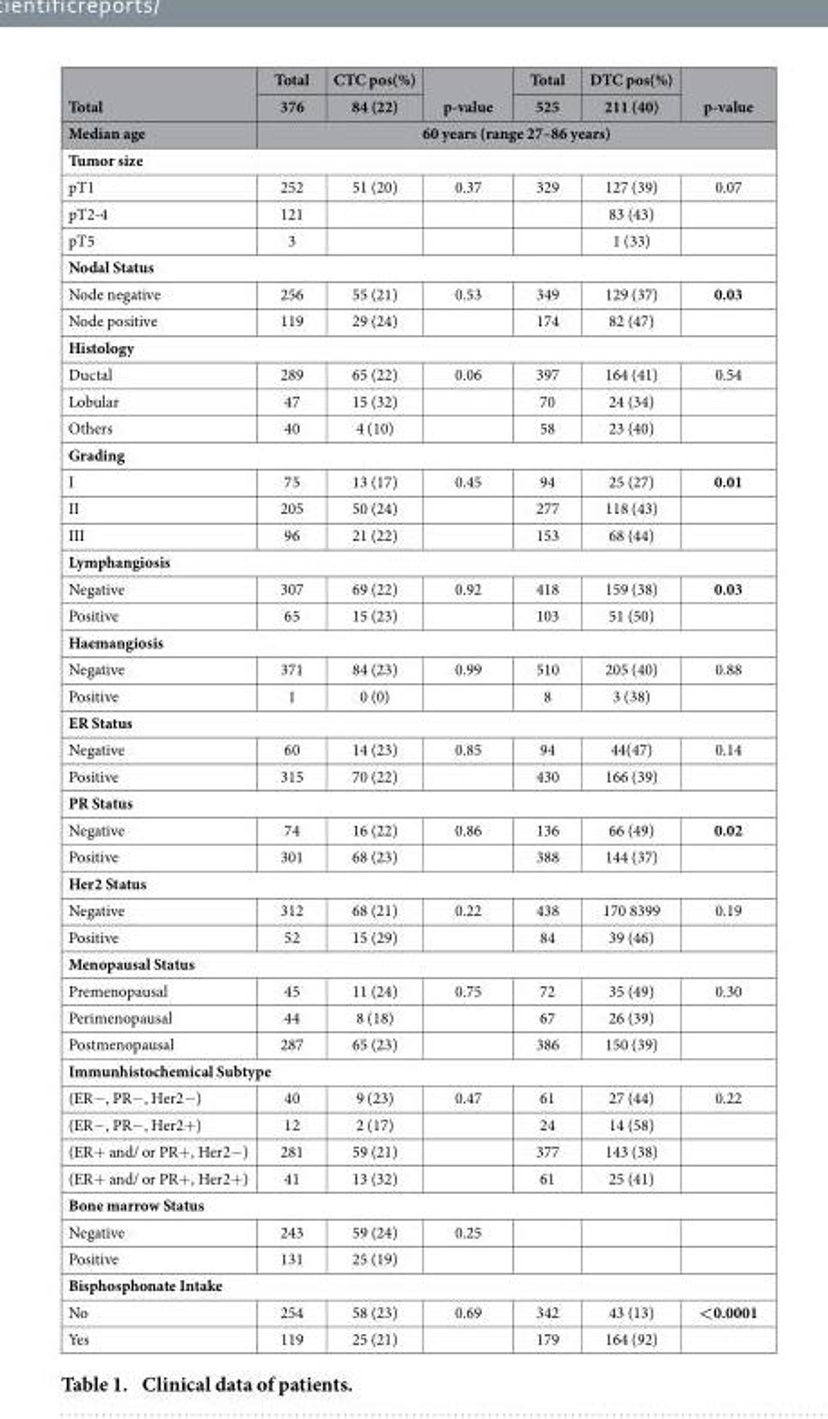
<table><thead><tr><td rowspan="3">Total Median age</td><td rowspan="2">Total 376</td><td rowspan="2">CTC pos(%) 84 (22)</td><td rowspan="2">p-value</td><td rowspan="2">Total 525</td><td rowspan="2">DTC pos(%) 211 (40)</td><td rowspan="2">p-value</td></tr><tr></tr><tr><td colspan="6">60 years (range 27–86 years)</td></tr></thead><tbody><tr><td colspan="7">Tumor size</td></tr><tr><td>pT1</td><td>252</td><td>51 (20)</td><td>0.37</td><td>329</td><td>127 (39)</td><td>0.07</td></tr><tr><td>pT2-4</td><td>121</td><td></td><td></td><td></td><td>83 (43)</td><td></td></tr><tr><td>pT5</td><td>3</td><td></td><td></td><td></td><td>1 (33)</td><td></td></tr><tr><td colspan="7">Nodal Status</td></tr><tr><td>Node negative</td><td>256</td><td>55 (21)</td><td>0.53</td><td>349</td><td>129 (37)</td><td>0.03</td></tr><tr><td>Node positive</td><td>119</td><td>29 (24)</td><td></td><td>174</td><td>82 (47)</td><td></td></tr><tr><td colspan="7">Histology</td></tr><tr><td>Ductal</td><td>289</td><td>65 (22)</td><td>0.06</td><td>397</td><td>164 (41)</td><td>0.54</td></tr><tr><td>Lobular</td><td>47</td><td>15 (32)</td><td></td><td>70</td><td>24 (34)</td><td></td></tr><tr><td>Others</td><td>40</td><td>4 (10)</td><td></td><td>58</td><td>23 (40)</td><td></td></tr><tr><td colspan="7">Grading</td></tr><tr><td>I</td><td>75</td><td>13 (17)</td><td>0.45</td><td>94</td><td>25 (27)</td><td>0.01</td></tr><tr><td>II</td><td>205</td><td>50 (24)</td><td></td><td>277</td><td>118 (43)</td><td></td></tr><tr><td>III</td><td>96</td><td>21 (22)</td><td></td><td>153</td><td>68 (44)</td><td></td></tr><tr><td colspan="7">Lymphangiosis</td></tr><tr><td>Negative</td><td>307</td><td>69 (22)</td><td>0.92</td><td>418</td><td>159 (38)</td><td>0.03</td></tr><tr><td>Positive</td><td>65</td><td>15 (23)</td><td></td><td>103</td><td>51 (50)</td><td></td></tr><tr><td colspan="7">Haemangiosis</td></tr><tr><td>Negative</td><td>371</td><td>84 (23)</td><td>0.99</td><td>510</td><td>205 (40)</td><td>0.88</td></tr><tr><td>Positive</td><td>1</td><td>0 (0)</td><td></td><td>8</td><td>3 (38)</td><td></td></tr><tr><td colspan="7">ER Status</td></tr><tr><td>Negative</td><td>60</td><td>14 (23)</td><td>0.85</td><td>94</td><td>44(47)</td><td>0.14</td></tr><tr><td>Positive</td><td>315</td><td>70 (22)</td><td></td><td>430</td><td>166 (39)</td><td></td></tr><tr><td colspan="7">PR Status</td></tr><tr><td>Negative</td><td>74</td><td>16 (22)</td><td>0.86</td><td>136</td><td>66 (49)</td><td>0.02</td></tr><tr><td>Positive</td><td>301</td><td>68 (23)</td><td></td><td>388</td><td>144 (37)</td><td></td></tr><tr><td colspan="7">Her2 Status</td></tr><tr><td>Negative</td><td>312</td><td>68 (21)</td><td>0.22</td><td>438</td><td>170 8399</td><td>0.19</td></tr><tr><td>Positive</td><td>52</td><td>15 (29)</td><td></td><td>84</td><td>39 (46)</td><td></td></tr><tr><td colspan="7">Menopausal Status</td></tr><tr><td>Premenopausal</td><td>45</td><td>11 (24)</td><td>0.75</td><td>72</td><td>35 (49)</td><td>0.30</td></tr><tr><td>Perimenopausal</td><td>44</td><td>8 (18)</td><td></td><td>67</td><td>26 (39)</td><td></td></tr><tr><td>Postmenopausal</td><td>287</td><td>65 (23)</td><td></td><td>386</td><td>150 (39)</td><td></td></tr><tr><td colspan="7">Immunhistochemical Subtype</td></tr><tr><td>(ER− , PR− , Her2− )</td><td>40</td><td>9 (23)</td><td>0.47</td><td>61</td><td>27 (44)</td><td>0.22</td></tr><tr><td>(ER− , PR− , Her2+ )</td><td>12</td><td>2 (17)</td><td></td><td>24</td><td>14 (58)</td><td></td></tr><tr><td>(ER+ and/ or PR+ , Her2−)</td><td>281</td><td>59 (21)</td><td></td><td>377</td><td>143 (38)</td><td></td></tr><tr><td>(ER+ and/ or PR+ , Her2+ )</td><td>41</td><td>13 (32)</td><td></td><td>61</td><td>25 (41)</td><td></td></tr><tr><td colspan="7">Bone marrow Status</td></tr><tr><td>Negative</td><td>243</td><td>59 (24)</td><td>0.25</td><td></td><td></td><td></td></tr><tr><td>Positive</td><td>131</td><td>25 (19)</td><td></td><td></td><td></td><td></td></tr><tr><td colspan="7">Bisphosphonate Intake</td></tr><tr><td>No</td><td>254</td><td>58 (23)</td><td>0.69</td><td>342</td><td>43 (13)</td><td>&lt;0.0001</td></tr><tr><td>Yes</td><td>119</td><td>25 (21)</td><td></td><td>179</td><td>164 (92)</td><td></td></tr></tbody></table>